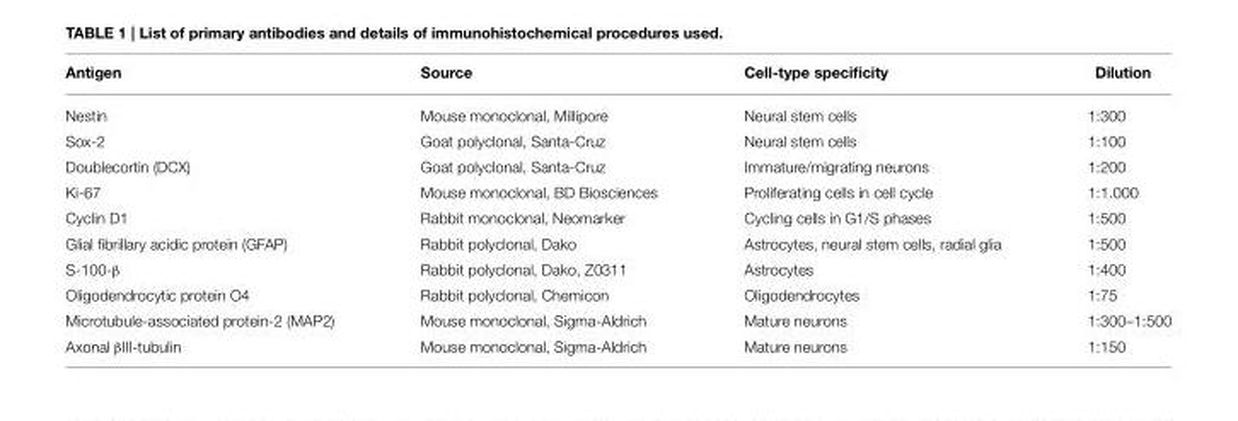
<table><thead><tr><td>Antigen</td><td>Source</td><td>Cell-type specificity</td><td>Dilution</td></tr></thead><tbody><tr><td>Nestin</td><td>Mouse monoclonal, Millipore</td><td>Neural stem cells</td><td>1:300</td></tr><tr><td>Sox-2</td><td>Goat polyclonal, Santa-Cruz</td><td>Neural stem cells</td><td>1:100</td></tr><tr><td>Doublecortin (DCX)</td><td>Goat polyclonal, Santa-Cruz</td><td>Immature/migrating neurons</td><td>1:200</td></tr><tr><td>Ki-67</td><td>Mouse monoclonal, BD Biosciences</td><td>Proliferating cells in cell cycle</td><td>1:1.000</td></tr><tr><td>Cyclin D1</td><td>Rabbit monoclonal, Neomarker</td><td>Cycling cells in G1/S phases</td><td>1:500</td></tr><tr><td>Glial fibrillary acidic protein (GFAP)</td><td>Rabbit polyclonal, Dako</td><td>Astrocytes, neural stem cells, radial glia</td><td>1:500</td></tr><tr><td>S-100-β</td><td>Rabbit polyclonal, Dako, Z0311</td><td>Astrocytes</td><td>1:400</td></tr><tr><td>Oligodendrocytic protein O4</td><td>Rabbit polyclonal, Chemicon</td><td>Oligodendrocytes</td><td>1:75</td></tr><tr><td>Microtubule-associated protein-2 (MAP2)</td><td>Mouse monoclonal, Sigma-Aldrich</td><td>Mature neurons</td><td>1:300–1:500</td></tr><tr><td>Axonal βIII-tubulin</td><td>Mouse monoclonal, Sigma-Aldrich</td><td>Mature neurons</td><td>1:150</td></tr></tbody></table>